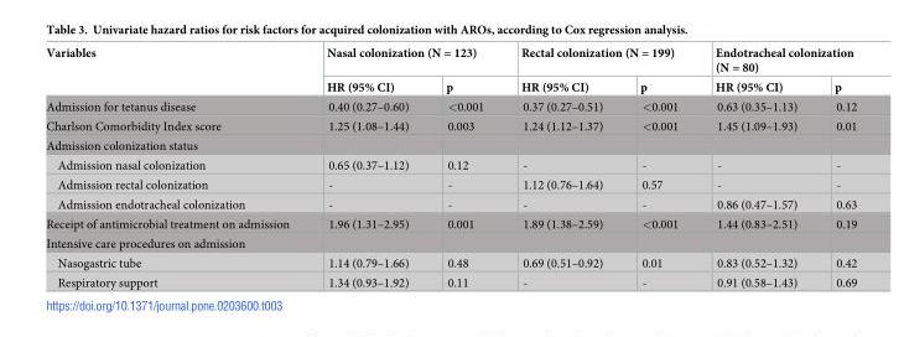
<table><thead><tr><td rowspan="2">Variables</td><td colspan="2">Nasal colonization (N = 123)</td><td colspan="2">Rectal colonization (N = 199)</td><td colspan="2">Endotracheal colonization (N = 80)</td></tr><tr><td>HR (95% CI)</td><td>p</td><td>HR (95% CI)</td><td>p</td><td>HR (95% CI)</td><td>p</td></tr></thead><tbody><tr><td>Admission for tetanus disease</td><td>0.40 (0.27–0.60)</td><td>&lt;0.001</td><td>0.37 (0.27–0.51)</td><td>&lt;0.001</td><td>0.63 (0.35–1.13)</td><td>0.12</td></tr><tr><td>Charlson Comorbidity Index score</td><td>1.25 (1.08–1.44)</td><td>0.003</td><td>1.24 (1.12–1.37)</td><td>&lt;0.001</td><td>1.45 (1.09–1.93)</td><td>0.01</td></tr><tr><td colspan="7">Admission colonization status</td></tr><tr><td>Admission nasal colonization</td><td>0.65 (0.37–1.12)</td><td>0.12</td><td>-</td><td>-</td><td>-</td><td>-</td></tr><tr><td>Admission rectal colonization</td><td>-</td><td>-</td><td>1.12 (0.76–1.64)</td><td>0.57</td><td>-</td><td>-</td></tr><tr><td>Admission endotracheal colonization</td><td>-</td><td>-</td><td>-</td><td>-</td><td>0.86 (0.47–1.57)</td><td>0.63</td></tr><tr><td>Receipt of antimicrobial treatment on admission</td><td>1.96 (1.31–2.95)</td><td>0.001</td><td>1.89 (1.38–2.59)</td><td>&lt;0.001</td><td>1.44 (0.83–2.51)</td><td>0.19</td></tr><tr><td colspan="7">Intensive care procedures on admission</td></tr><tr><td>Nasogastric tube</td><td>1.14 (0.79–1.66)</td><td>0.48</td><td>0.69 (0.51–0.92)</td><td>0.01</td><td>0.83 (0.52–1.32)</td><td>0.42</td></tr><tr><td>Respiratory support</td><td>1.34 (0.93–1.92)</td><td>0.11</td><td>-</td><td>-</td><td>0.91 (0.58–1.43)</td><td>0.69</td></tr></tbody></table>